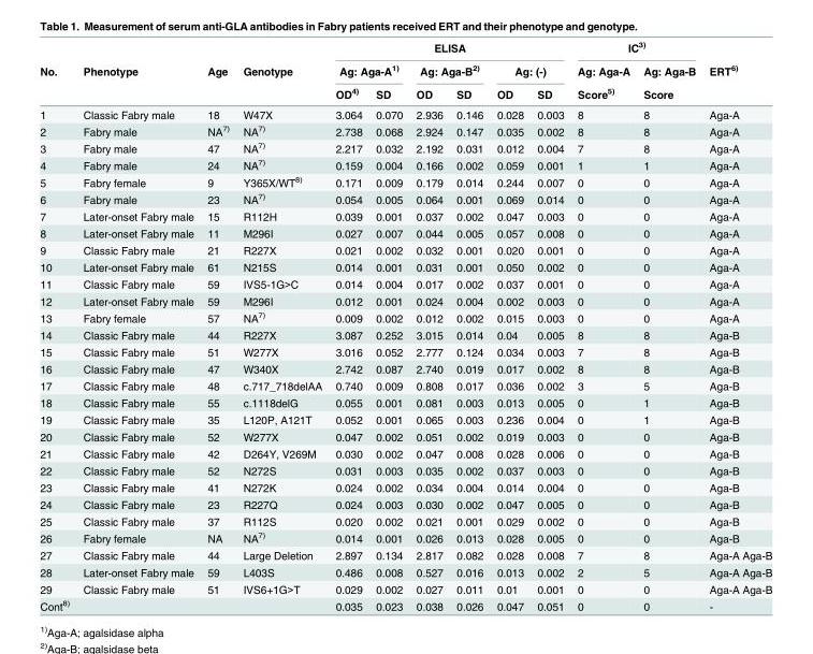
<table><thead><tr><td rowspan="3">No.</td><td rowspan="3">Phenotype</td><td rowspan="3">Age</td><td rowspan="3">Genotype</td><td colspan="6">ELISA</td><td colspan="2">IC<sup>3)</sup></td><td rowspan="3">ERT<sup>6)</sup></td></tr><tr><td colspan="2">Ag: Aga-A<sup>1)</sup></td><td colspan="2">Ag: Aga-B<sup>2)</sup></td><td colspan="2">Ag: (-)</td><td rowspan="2">Ag: Aga-A Score<sup>5)</sup></td><td rowspan="2">Ag: Aga-B Score</td></tr><tr><td>OD<sup>4)</sup></td><td>SD</td><td>OD</td><td>SD</td><td>OD</td><td>SD</td></tr></thead><tbody><tr><td>1</td><td>Classic Fabry male</td><td>18</td><td>W47X</td><td>3.064</td><td>0.070</td><td>2.936</td><td>0.146</td><td>0.028</td><td>0.003</td><td>8</td><td>8</td><td>Aga-A</td></tr><tr><td>2</td><td>Fabry male</td><td>NA<sup>7)</sup></td><td>NA<sup>7)</sup></td><td>2.738</td><td>0.068</td><td>2.924</td><td>0.147</td><td>0.035</td><td>0.002</td><td>8</td><td>8</td><td>Aga-A</td></tr><tr><td>3</td><td>Fabry male</td><td>47</td><td>NA<sup>7)</sup></td><td>2.217</td><td>0.032</td><td>2.192</td><td>0.031</td><td>0.012</td><td>0.004</td><td>7</td><td>8</td><td>Aga-A</td></tr><tr><td>4</td><td>Fabry male</td><td>24</td><td>NA<sup>7)</sup></td><td>0.159</td><td>0.004</td><td>0.166</td><td>0.002</td><td>0.059</td><td>0.001</td><td>1</td><td>1</td><td>Aga-A</td></tr><tr><td>5</td><td>Fabry female</td><td>9</td><td>Y365X/WT<sup>8)</sup></td><td>0.171</td><td>0.009</td><td>0.179</td><td>0.014</td><td>0.244</td><td>0.007</td><td>0</td><td>0</td><td>Aga-A</td></tr><tr><td>6</td><td>Fabry male</td><td>23</td><td>NA<sup>7)</sup></td><td>0.054</td><td>0.005</td><td>0.064</td><td>0.001</td><td>0.069</td><td>0.014</td><td>0</td><td>0</td><td>Aga-A</td></tr><tr><td>7</td><td>Later-onset Fabry male</td><td>15</td><td>R112H</td><td>0.039</td><td>0.001</td><td>0.037</td><td>0.002</td><td>0.047</td><td>0.003</td><td>0</td><td>0</td><td>Aga-A</td></tr><tr><td>8</td><td>Later-onset Fabry male</td><td>11</td><td>M296I</td><td>0.027</td><td>0.007</td><td>0.044</td><td>0.005</td><td>0.057</td><td>0.008</td><td>0</td><td>0</td><td>Aga-A</td></tr><tr><td>9</td><td>Classic Fabry male</td><td>21</td><td>R227X</td><td>0.021</td><td>0.002</td><td>0.032</td><td>0.001</td><td>0.020</td><td>0.001</td><td>0</td><td>0</td><td>Aga-A</td></tr><tr><td>10</td><td>Later-onset Fabry male</td><td>61</td><td>N215S</td><td>0.014</td><td>0.001</td><td>0.031</td><td>0.001</td><td>0.050</td><td>0.002</td><td>0</td><td>0</td><td>Aga-A</td></tr><tr><td>11</td><td>Classic Fabry male</td><td>59</td><td>IVS5-1G&gt;C</td><td>0.014</td><td>0.004</td><td>0.017</td><td>0.002</td><td>0.037</td><td>0.001</td><td>0</td><td>0</td><td>Aga-A</td></tr><tr><td>12</td><td>Later-onset Fabry male</td><td>59</td><td>M296I</td><td>0.012</td><td>0.001</td><td>0.024</td><td>0.004</td><td>0.002</td><td>0.003</td><td>0</td><td>0</td><td>Aga-A</td></tr><tr><td>13</td><td>Fabry female</td><td>57</td><td>NA<sup>7)</sup></td><td>0.009</td><td>0.002</td><td>0.012</td><td>0.002</td><td>0.015</td><td>0.003</td><td>0</td><td>0</td><td>Aga-A</td></tr><tr><td>14</td><td>Classic Fabry male</td><td>44</td><td>R227X</td><td>3.087</td><td>0.252</td><td>3.015</td><td>0.014</td><td>0.04</td><td>0.005</td><td>8</td><td>8</td><td>Aga-B</td></tr><tr><td>15</td><td>Classic Fabry male</td><td>51</td><td>W277X</td><td>3.016</td><td>0.052</td><td>2.777</td><td>0.124</td><td>0.034</td><td>0.003</td><td>7</td><td>8</td><td>Aga-B</td></tr><tr><td>16</td><td>Classic Fabry male</td><td>47</td><td>W340X</td><td>2.742</td><td>0.087</td><td>2.740</td><td>0.019</td><td>0.017</td><td>0.002</td><td>8</td><td>8</td><td>Aga-B</td></tr><tr><td>17</td><td>Classic Fabry male</td><td>48</td><td>c.717_718delAA</td><td>0.740</td><td>0.009</td><td>0.808</td><td>0.017</td><td>0.036</td><td>0.002</td><td>3</td><td>5</td><td>Aga-B</td></tr><tr><td>18</td><td>Classic Fabry male</td><td>55</td><td>c.1118delG</td><td>0.055</td><td>0.001</td><td>0.081</td><td>0.003</td><td>0.013</td><td>0.005</td><td>0</td><td>1</td><td>Aga-B</td></tr><tr><td>19</td><td>Classic Fabry male</td><td>35</td><td>L120P, A121T</td><td>0.052</td><td>0.001</td><td>0.065</td><td>0.003</td><td>0.236</td><td>0.004</td><td>0</td><td>1</td><td>Aga-B</td></tr><tr><td>20</td><td>Classic Fabry male</td><td>52</td><td>W277X</td><td>0.047</td><td>0.002</td><td>0.051</td><td>0.002</td><td>0.019</td><td>0.003</td><td>0</td><td>0</td><td>Aga-B</td></tr><tr><td>21</td><td>Classic Fabry male</td><td>42</td><td>D264Y, V269M</td><td>0.030</td><td>0.002</td><td>0.047</td><td>0.008</td><td>0.028</td><td>0.006</td><td>0</td><td>0</td><td>Aga-B</td></tr><tr><td>22</td><td>Classic Fabry male</td><td>52</td><td>N272S</td><td>0.031</td><td>0.003</td><td>0.035</td><td>0.002</td><td>0.037</td><td>0.003</td><td>0</td><td>0</td><td>Aga-B</td></tr><tr><td>23</td><td>Classic Fabry male</td><td>41</td><td>N272K</td><td>0.024</td><td>0.002</td><td>0.034</td><td>0.004</td><td>0.014</td><td>0.004</td><td>0</td><td>0</td><td>Aga-B</td></tr><tr><td>24</td><td>Classic Fabry male</td><td>23</td><td>R227Q</td><td>0.024</td><td>0.003</td><td>0.030</td><td>0.002</td><td>0.047</td><td>0.005</td><td>0</td><td>0</td><td>Aga-B</td></tr><tr><td>25</td><td>Classic Fabry male</td><td>37</td><td>R112S</td><td>0.020</td><td>0.002</td><td>0.021</td><td>0.001</td><td>0.029</td><td>0.002</td><td>0</td><td>0</td><td>Aga-B</td></tr><tr><td>26</td><td>Fabry female</td><td>NA</td><td>NA<sup>7)</sup></td><td>0.014</td><td>0.001</td><td>0.026</td><td>0.013</td><td>0.028</td><td>0.005</td><td>0</td><td>0</td><td>Aga-B</td></tr><tr><td>27</td><td>Classic Fabry male</td><td>44</td><td>Large Deletion</td><td>2.897</td><td>0.134</td><td>2.817</td><td>0.082</td><td>0.028</td><td>0.008</td><td>7</td><td>8</td><td>Aga-A Aga-B</td></tr><tr><td>28</td><td>Later-onset Fabry male</td><td>59</td><td>L403S</td><td>0.486</td><td>0.008</td><td>0.527</td><td>0.016</td><td>0.013</td><td>0.002</td><td>2</td><td>5</td><td>Aga-A Aga-B</td></tr><tr><td>29</td><td>Classic Fabry male</td><td>51</td><td>IVS6+1G&gt;T</td><td>0.029</td><td>0.002</td><td>0.027</td><td>0.011</td><td>0.01</td><td>0.001</td><td>0</td><td>0</td><td>Aga-A Aga-B</td></tr><tr><td>Cont<sup>8)</sup></td><td></td><td></td><td></td><td>0.035</td><td>0.023</td><td>0.038</td><td>0.026</td><td>0.047</td><td>0.051</td><td>0</td><td>0</td><td>-</td></tr></tbody></table>